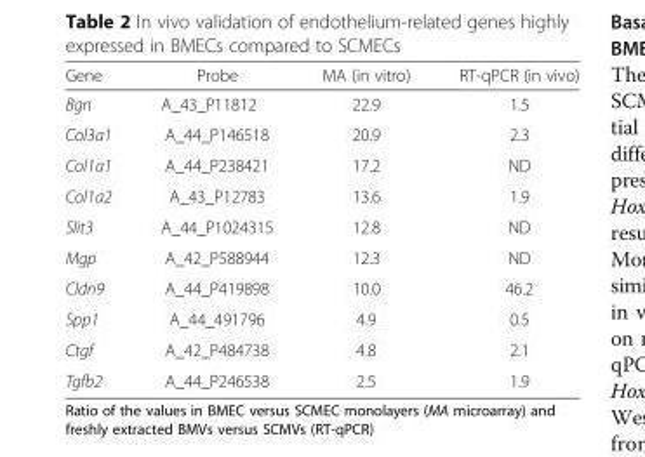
<table><thead><tr><td>Gene</td><td>Probe</td><td>MA (in vitro)</td><td>RT-qPCR (in vivo)</td></tr></thead><tbody><tr><td>Bgn</td><td>A_43_P11812</td><td>22.9</td><td>1.5</td></tr><tr><td>Col3a1</td><td>A_44_P146518</td><td>20.9</td><td>2.3</td></tr><tr><td>Col1a1</td><td>A_44_P238421</td><td>17.2</td><td>ND</td></tr><tr><td>Col1a2</td><td>A_43_P12783</td><td>13.6</td><td>1.9</td></tr><tr><td>Slit3</td><td>A_44_P1024315</td><td>12.8</td><td>ND</td></tr><tr><td>Mgp</td><td>A_42_P588944</td><td>12.3</td><td>ND</td></tr><tr><td>Cldn9</td><td>A_44_P419898</td><td>10.0</td><td>46.2</td></tr><tr><td>Spp1</td><td>A_44_491796</td><td>4.9</td><td>0.5</td></tr><tr><td>Ctgf</td><td>A_42_P484738</td><td>4.8</td><td>2.1</td></tr><tr><td>Tgfb2</td><td>A_44_P246538</td><td>2.5</td><td>1.9</td></tr></tbody></table>